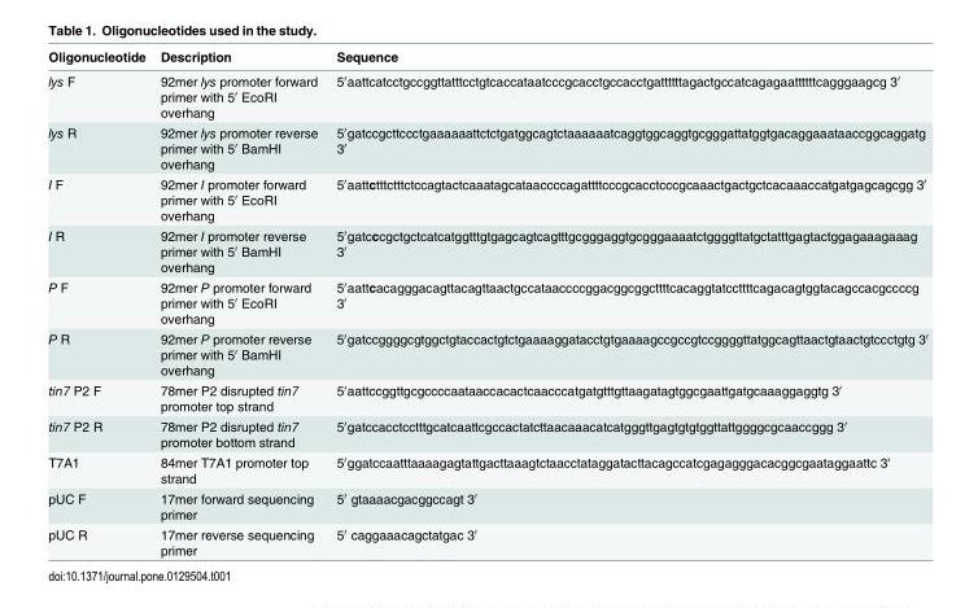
<table><thead><tr><td>Oligonucleotide</td><td>Description</td><td>Sequence</td></tr></thead><tbody><tr><td>lys F</td><td>92mer lys promoter forward primer with 5′ EcoRI overhang</td><td>5′aattcatcctgccggttatttcctgtcaccataatcccgcacctgccacctgattttttagactgccatcagagaattttttcagggaagcg 3′</td></tr><tr><td>lys R</td><td>92mer lys promoter reverse primer with 5′ BamHI overhang</td><td>5′gatccgcttccctgaaaaaattctctgatggcagtctaaaaaatcaggtggcaggtgcgggattatggtgacaggaaataaccggcaggatg 3′</td></tr><tr><td>I F</td><td>92mer I promoter forward primer with 5′ EcoRI overhang</td><td>5′aattctttctttctccagtactcaaatagcataaccccagattttcccgcacctcccgcaaactgactgctcacaaaccatgatgagcagcgg 3′</td></tr><tr><td>I R</td><td>92mer I promoter reverse primer with 5′ BamHI overhang</td><td>5′gatcccgctgctcatcatggtttgtgagcagtcagtttgcgggaggtgcgggaaaatctggggttatgctatttgagtactggagaaagaaag 3′</td></tr><tr><td>P F</td><td>92mer P promoter forward primer with 5′ EcoRI overhang</td><td>5′aattcacagggacagttacagttaactgccataaccccggacggcggcttttcacaggtatccttttcagacagtggtacagccacgccccg 3′</td></tr><tr><td>P R</td><td>92mer P promoter reverse primer with 5′ BamHI overhang</td><td>5′gatccggggcgtggctgtaccactgtctgaaaaggatacctgtgaaaagccgccgtccggggttatggcagttaactgtaactgtccctgtg 3′</td></tr><tr><td>tin7 P2 F</td><td>78mer P2 disrupted tin7 promoter top strand</td><td>5′aattccggttgcgccccaataaccacactcaacccatgatgtttgttaagatagtggcgaattgatgcaaaggaggtg 3′</td></tr><tr><td>tin7 P2 R</td><td>78mer P2 disrupted tin7 promoter bottom strand</td><td>5′gatccacctcctttgcatcaattcgccactatcttaacaaacatcatgggttgagtgtgtggttattggggcgcaaccggg 3′</td></tr><tr><td>T7A1</td><td>84mer T7A1 promoter top strand</td><td>5′ggatccaatttaaaagagtattgacttaaagtctaacctataggatacttacagccatcgagagggacacggcgaataggaattc 3&#x27;</td></tr><tr><td>pUC F</td><td>17mer forward sequencing primer</td><td>5′ gtaaaacgacggccagt 3′</td></tr><tr><td>pUC R</td><td>17mer reverse sequencing primer</td><td>5′ caggaaacagctatgac 3′</td></tr></tbody></table>